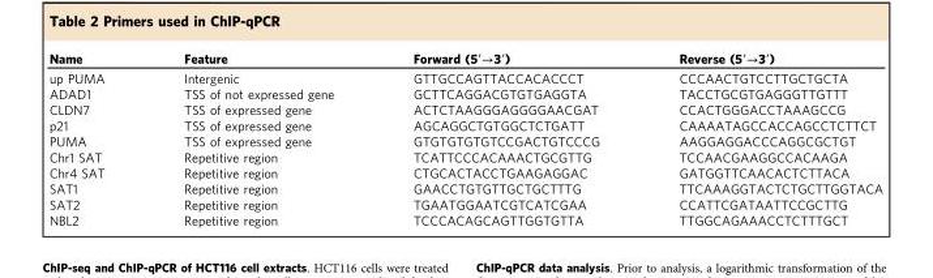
<table><thead><tr><td>Name</td><td>Feature</td><td>Forward (5′→3′)</td><td>Reverse (5′→3′)</td></tr></thead><tbody><tr><td>up PUMA</td><td>Intergenic</td><td>GTTGCCAGTTACCACACCCT</td><td>CCCAACTGTCCTTGCTGCTA</td></tr><tr><td>ADAD1</td><td>TSS of not expressed gene</td><td>GCTTCAGGACGTGTGAGGTA</td><td>TACCTGCGTGAGGGTTGTTT</td></tr><tr><td>CLDN7</td><td>TSS of expressed gene</td><td>ACTCTAAGGGAGGGGAACGAT</td><td>CCACTGGGACCTAAAGCCG</td></tr><tr><td>p21</td><td>TSS of expressed gene</td><td>AGCAGGCTGTGGCTCTGATT</td><td>CAAAATAGCCACCAGCCTCTTCT</td></tr><tr><td>PUMA</td><td>TSS of expressed gene</td><td>GTGTGTGTGTCCGACTGTCCCG</td><td>AAGGAGGACCCAGGCGCTGT</td></tr><tr><td>Chr1 SAT</td><td>Repetitive region</td><td>TCATTCCCACAAACTGCGTTG</td><td>TCCAACGAAGGCCACAAGA</td></tr><tr><td>Chr4 SAT</td><td>Repetitive region</td><td>CTGCACTACCTGAAGAGGAC</td><td>GATGGTTCAACACTCTTACA</td></tr><tr><td>SAT1</td><td>Repetitive region</td><td>GAACCTGTGTTGCTGCTTTG</td><td>TTCAAAGGTACTCTGCTTGGTACA</td></tr><tr><td>SAT2</td><td>Repetitive region</td><td>TGAATGGAATCGTCATCGAA</td><td>CCATTCGATAATTCCGCTTG</td></tr><tr><td>NBL2</td><td>Repetitive region</td><td>TCCCACAGCAGTTGGTGTTA</td><td>TTGGCAGAAACCTCTTTGCT</td></tr></tbody></table>